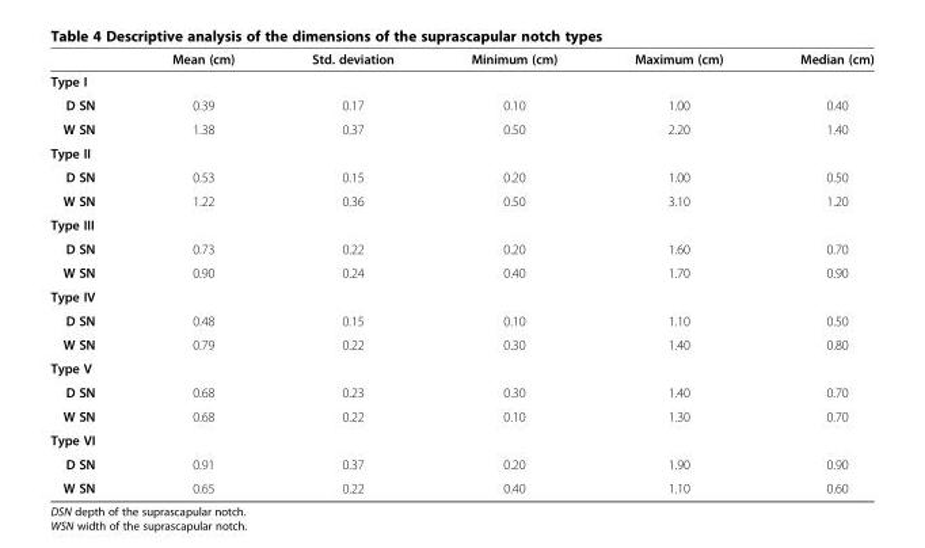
<table><thead><tr><td></td><td>Mean (cm)</td><td>Std. deviation</td><td>Minimum (cm)</td><td>Maximum (cm)</td><td>Median (cm)</td></tr></thead><tbody><tr><td colspan="6">Type I</td></tr><tr><td>D SN</td><td>0.39</td><td>0.17</td><td>0.10</td><td>1.00</td><td>0.40</td></tr><tr><td>W SN</td><td>1.38</td><td>0.37</td><td>0.50</td><td>2.20</td><td>1.40</td></tr><tr><td colspan="6">Type II</td></tr><tr><td>D SN</td><td>0.53</td><td>0.15</td><td>0.20</td><td>1.00</td><td>0.50</td></tr><tr><td>W SN</td><td>1.22</td><td>0.36</td><td>0.50</td><td>3.10</td><td>1.20</td></tr><tr><td colspan="6">Type III</td></tr><tr><td>D SN</td><td>0.73</td><td>0.22</td><td>0.20</td><td>1.60</td><td>0.70</td></tr><tr><td>W SN</td><td>0.90</td><td>0.24</td><td>0.40</td><td>1.70</td><td>0.90</td></tr><tr><td colspan="6">Type IV</td></tr><tr><td>D SN</td><td>0.48</td><td>0.15</td><td>0.10</td><td>1.10</td><td>0.50</td></tr><tr><td>W SN</td><td>0.79</td><td>0.22</td><td>0.30</td><td>1.40</td><td>0.80</td></tr><tr><td colspan="6">Type V</td></tr><tr><td>D SN</td><td>0.68</td><td>0.23</td><td>0.30</td><td>1.40</td><td>0.70</td></tr><tr><td>W SN</td><td>0.68</td><td>0.22</td><td>0.10</td><td>1.30</td><td>0.70</td></tr><tr><td colspan="6">Type VI</td></tr><tr><td>D SN</td><td>0.91</td><td>0.37</td><td>0.20</td><td>1.90</td><td>0.90</td></tr><tr><td>W SN</td><td>0.65</td><td>0.22</td><td>0.40</td><td>1.10</td><td>0.60</td></tr></tbody></table>